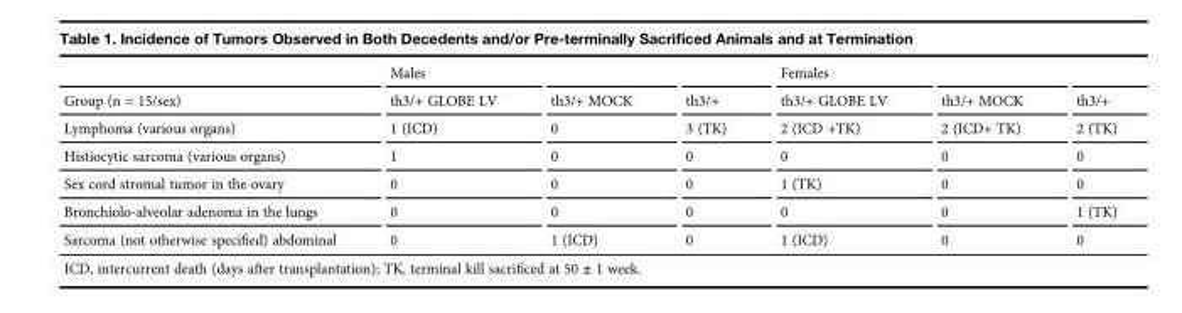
<table><thead><tr><td rowspan="2">Group (n = 15/sex)</td><td colspan="3">Males</td><td colspan="3">Females</td></tr><tr><td>th3/+ GLOBE LV</td><td>th3/+ MOCK</td><td>th3/+</td><td>th3/+ GLOBE LV</td><td>th3/+ MOCK</td><td>th3/+</td></tr></thead><tbody><tr><td>Lymphoma (various organs)</td><td>1 (ICD)</td><td>0</td><td>3 (TK)</td><td>2 (ICD +TK)</td><td>2 (ICD+ TK)</td><td>2 (TK)</td></tr><tr><td>Histiocytic sarcoma (various organs)</td><td>1</td><td>0</td><td>0</td><td>0</td><td>0</td><td>0</td></tr><tr><td>Sex cord stromal tumor in the ovary</td><td>0</td><td>0</td><td>0</td><td>1 (TK)</td><td>0</td><td>0</td></tr><tr><td>Bronchiolo-alveolar adenoma in the lungs</td><td>0</td><td>0</td><td>0</td><td>0</td><td>0</td><td>1 (TK)</td></tr><tr><td>Sarcoma (not otherwise specified) abdominal</td><td>0</td><td>1 (ICD)</td><td>0</td><td>1 (ICD)</td><td>0</td><td>0</td></tr></tbody></table>